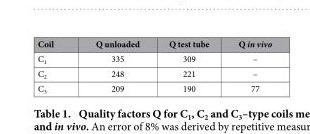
<table><thead><tr><td>Coil</td><td>Q unloaded</td><td>Q test tube</td><td>Q in vivo</td></tr></thead><tbody><tr><td>C<sub>1</sub></td><td>335</td><td>309</td><td>–</td></tr><tr><td>C<sub>2</sub></td><td>248</td><td>221</td><td>–</td></tr><tr><td>C<sub>3</sub></td><td>209</td><td>190</td><td>77</td></tr></tbody></table>